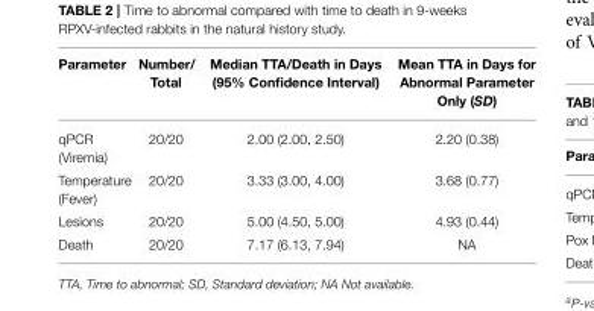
<table><thead><tr><td>Parameter</td><td>Number/ Total</td><td>Median TTA/Death in Days (95% Confidence Interval)</td><td>Mean TTA in Days for Abnormal Parameter Only (SD)</td></tr></thead><tbody><tr><td>qPCR (Viremia)</td><td>20/20</td><td>2.00 (2.00, 2.50)</td><td>2.20 (0.38)</td></tr><tr><td>Temperature (Fever)</td><td>20/20</td><td>3.33 (3.00, 4.00)</td><td>3.68 (0.77)</td></tr><tr><td>Lesions</td><td>20/20</td><td>5.00 (4.50, 5.00)</td><td>4.93 (0.44)</td></tr><tr><td>Death</td><td>20/20</td><td>7.17 (6.13, 7.94)</td><td>NA</td></tr></tbody></table>